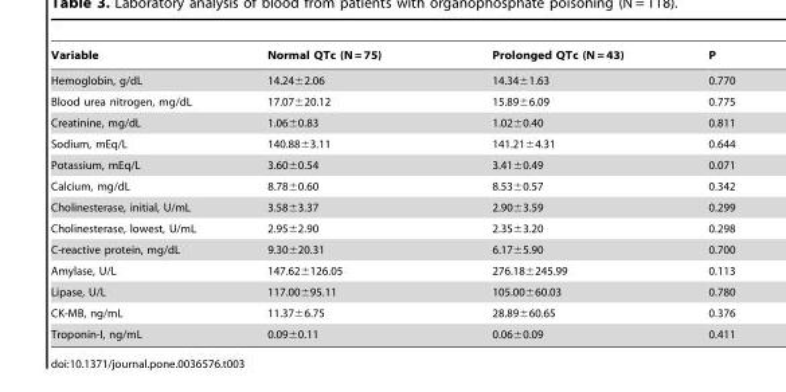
<table><thead><tr><td>Variable</td><td>Normal QTc (N = 75)</td><td>Prolonged QTc (N = 43)</td><td>P</td></tr></thead><tbody><tr><td>Hemoglobin, g/dL</td><td>14.24±2.06</td><td>14.34±1.63</td><td>0.770</td></tr><tr><td>Blood urea nitrogen, mg/dL</td><td>17.07±20.12</td><td>15.89±6.09</td><td>0.775</td></tr><tr><td>Creatinine, mg/dL</td><td>1.06±0.83</td><td>1.02±0.40</td><td>0.811</td></tr><tr><td>Sodium, mEq/L</td><td>140.88±3.11</td><td>141.21±4.31</td><td>0.644</td></tr><tr><td>Potassium, mEq/L</td><td>3.60±0.54</td><td>3.41±0.49</td><td>0.071</td></tr><tr><td>Calcium, mg/dL</td><td>8.78±0.60</td><td>8.53±0.57</td><td>0.342</td></tr><tr><td>Cholinesterase, initial, U/mL</td><td>3.58±3.37</td><td>2.90±3.59</td><td>0.299</td></tr><tr><td>Cholinesterase, lowest, U/mL</td><td>2.95±2.90</td><td>2.35±3.20</td><td>0.298</td></tr><tr><td>C-reactive protein, mg/dL</td><td>9.30±20.31</td><td>6.17±5.90</td><td>0.700</td></tr><tr><td>Amylase, U/L</td><td>147.62±126.05</td><td>276.18±245.99</td><td>0.113</td></tr><tr><td>Lipase, U/L</td><td>117.00±95.11</td><td>105.00±60.03</td><td>0.780</td></tr><tr><td>CK-MB, ng/mL</td><td>11.37±6.75</td><td>28.89±60.65</td><td>0.376</td></tr><tr><td>Troponin-I, ng/mL</td><td>0.09±0.11</td><td>0.06±0.09</td><td>0.411</td></tr></tbody></table>